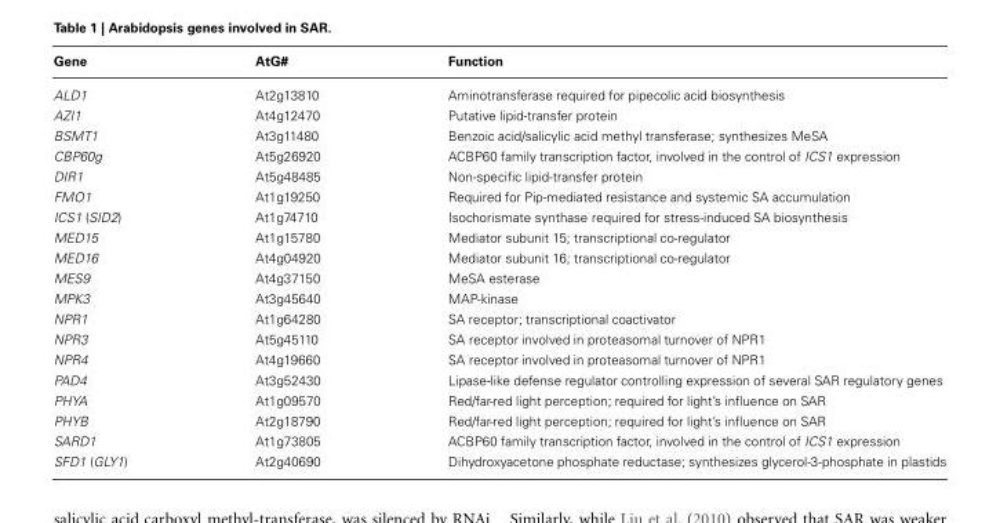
<table><thead><tr><td>Gene</td><td>AtG#</td><td>Function</td></tr></thead><tbody><tr><td>ALD1</td><td>At2g13810</td><td>Aminotransferase required for pipecolic acid biosynthesis</td></tr><tr><td>AZI1</td><td>At4g12470</td><td>Putative lipid-transfer protein</td></tr><tr><td>BSMT1</td><td>At3g11480</td><td>Benzoic acid/salicylic acid methyl transferase; synthesizes MeSA</td></tr><tr><td>CBP60g</td><td>At5g26920</td><td>ACBP60 family transcription factor, involved in the control of ICS1 expression</td></tr><tr><td>DIR1</td><td>At5g48485</td><td>Non-specific lipid-transfer protein</td></tr><tr><td>FMO1</td><td>At1g19250</td><td>Required for Pip-mediated resistance and systemic SA accumulation</td></tr><tr><td>ICS1 (SID2)</td><td>At1g74710</td><td>Isochorismate synthase required for stress-induced SA biosynthesis</td></tr><tr><td>MED15</td><td>At1g15780</td><td>Mediator subunit 15; transcriptional co-regulator</td></tr><tr><td>MED16</td><td>At4g04920</td><td>Mediator subunit 16; transcriptional co-regulator</td></tr><tr><td>MES9</td><td>At4g37150</td><td>MeSA esterase</td></tr><tr><td>MPK3</td><td>At3g45640</td><td>MAP-kinase</td></tr><tr><td>NPR1</td><td>At1g64280</td><td>SA receptor; transcriptional coactivator</td></tr><tr><td>NPR3</td><td>At5g45110</td><td>SA receptor involved in proteasomal turnover of NPR1</td></tr><tr><td>NPR4</td><td>At4g19660</td><td>SA receptor involved in proteasomal turnover of NPR1</td></tr><tr><td>PAD4</td><td>At3g52430</td><td>Lipase-like defense regulator controlling expression of several SAR regulatory genes</td></tr><tr><td>PHYA</td><td>At1g09570</td><td>Red/far-red light perception; required for light’s influence on SAR</td></tr><tr><td>PHYB</td><td>At2g18790</td><td>Red/far-red light perception; required for light’s influence on SAR</td></tr><tr><td>SARD1</td><td>At1g73805</td><td>ACBP60 family transcription factor, involved in the control of ICS1 expression</td></tr><tr><td>SFD1 (GLY1)</td><td>At2g40690</td><td>Dihydroxyacetone phosphate reductase; synthesizes glycerol-3-phosphate in plastids</td></tr></tbody></table>